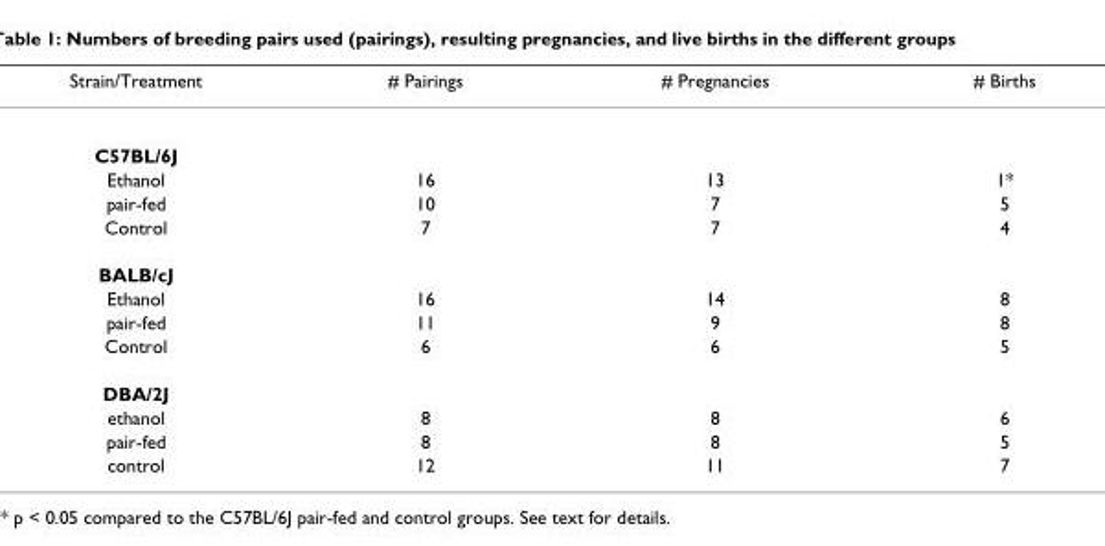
<table><thead><tr><td>Strain/Treatment</td><td># Pairings</td><td># Pregnancies</td><td># Births</td></tr></thead><tbody><tr><td colspan="4">C57BL/6J</td></tr><tr><td>Ethanol</td><td>16</td><td>13</td><td>1*</td></tr><tr><td>pair-fed</td><td>10</td><td>7</td><td>5</td></tr><tr><td>Control</td><td>7</td><td>7</td><td>4</td></tr><tr><td colspan="4">BALB/cJ</td></tr><tr><td>Ethanol</td><td>16</td><td>14</td><td>8</td></tr><tr><td>pair-fed</td><td>11</td><td>9</td><td>8</td></tr><tr><td>Control</td><td>6</td><td>6</td><td>5</td></tr><tr><td colspan="4">DBA/2J</td></tr><tr><td>ethanol</td><td>8</td><td>8</td><td>6</td></tr><tr><td>pair-fed</td><td>8</td><td>8</td><td>5</td></tr><tr><td>control</td><td>12</td><td>11</td><td>7</td></tr></tbody></table>